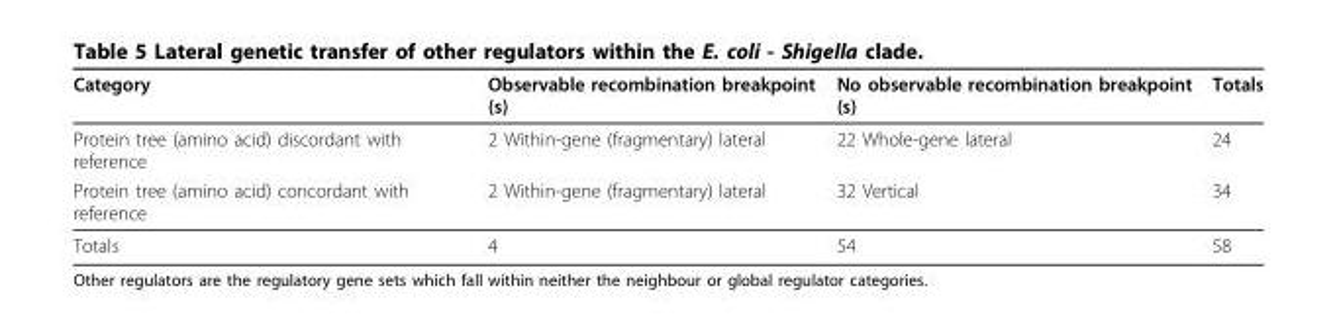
<table><thead><tr><td>Category</td><td>Observable recombination breakpoint (s)</td><td>No observable recombination breakpoint (s)</td><td>Totals</td></tr></thead><tbody><tr><td>Protein tree (amino acid) discordant with reference</td><td>2 Within-gene (fragmentary) lateral</td><td>22 Whole-gene lateral</td><td>24</td></tr><tr><td>Protein tree (amino acid) concordant with reference</td><td>2 Within-gene (fragmentary) lateral</td><td>32 Vertical</td><td>34</td></tr><tr><td>Totals</td><td>4</td><td>54</td><td>58</td></tr></tbody></table>